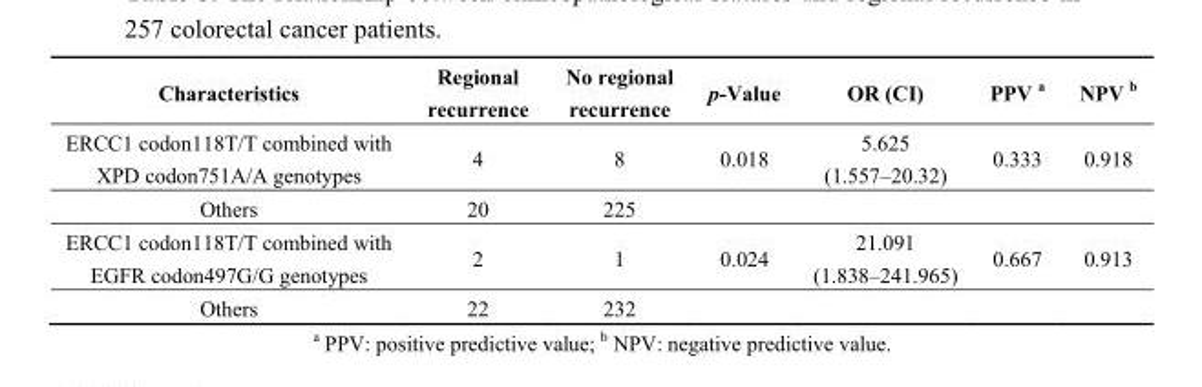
<table><thead><tr><td>Characteristics</td><td>Regional recurrence</td><td>No regional recurrence</td><td>p-Value</td><td>OR (CI)</td><td>PPV a</td><td>NPV b</td></tr></thead><tbody><tr><td>ERCC1 codon118T/T combined with XPD codon751A/A genotypes</td><td>4</td><td>8</td><td>0.018</td><td>5.625 (1.557–20.32)</td><td>0.333</td><td>0.918</td></tr><tr><td>Others</td><td>20</td><td>225</td><td></td><td></td><td></td><td></td></tr><tr><td>ERCC1 codon118T/T combined with EGFR codon497G/G genotypes</td><td>2</td><td>1</td><td>0.024</td><td>21.091 (1.838–241.965)</td><td>0.667</td><td>0.913</td></tr><tr><td>Others</td><td>22</td><td>232</td><td></td><td></td><td></td><td></td></tr></tbody></table>